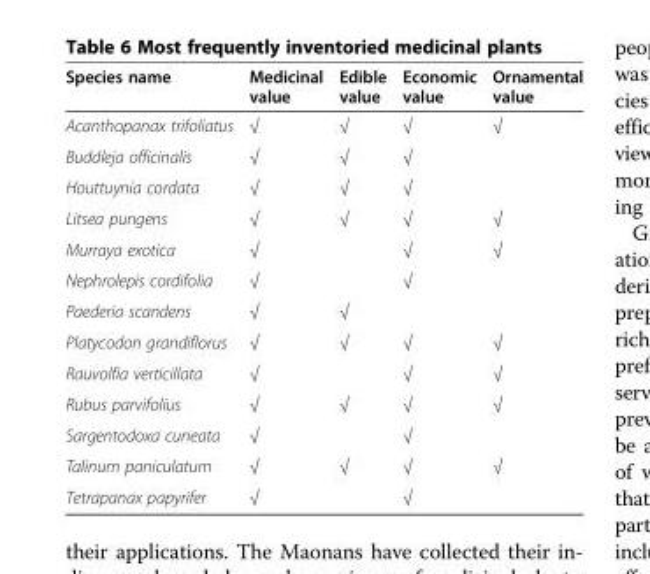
<table><thead><tr><td>Species name</td><td>Medicinal value</td><td>Edible value</td><td>Economic value</td><td>Ornamental value</td></tr></thead><tbody><tr><td>Acanthopanax trifoliatus</td><td>√</td><td>√</td><td>√</td><td>√</td></tr><tr><td>Buddleja officinalis</td><td>√</td><td>√</td><td>√</td><td></td></tr><tr><td>Houttuynia cordata</td><td>√</td><td>√</td><td>√</td><td></td></tr><tr><td>Litsea pungens</td><td>√</td><td>√</td><td>√</td><td>√</td></tr><tr><td>Murraya exotica</td><td>√</td><td></td><td>√</td><td>√</td></tr><tr><td>Nephrolepis cordifolia</td><td>√</td><td></td><td>√</td><td></td></tr><tr><td>Paederia scandens</td><td>√</td><td>√</td><td></td><td></td></tr><tr><td>Platycodon grandiflorus</td><td>√</td><td>√</td><td>√</td><td>√</td></tr><tr><td>Rauvolfia verticillata</td><td>√</td><td></td><td>√</td><td>√</td></tr><tr><td>Rubus parvifolius</td><td>√</td><td>√</td><td>√</td><td>√</td></tr><tr><td>Sargentodoxa cuneata</td><td>√</td><td></td><td>√</td><td></td></tr><tr><td>Talinum paniculatum</td><td>√</td><td>√</td><td>√</td><td>√</td></tr><tr><td>Tetrapanax papyrifer</td><td>√</td><td></td><td>√</td><td></td></tr></tbody></table>